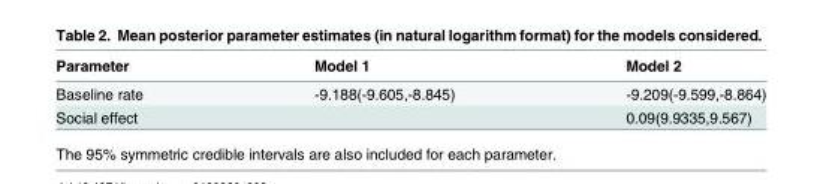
<table><thead><tr><td>Parameter</td><td>Model 1</td><td>Model 2</td></tr></thead><tbody><tr><td>Baseline rate</td><td>-9.188(-9.605,-8.845)</td><td>-9.209(-9.599,-8.864)</td></tr><tr><td>Social effect</td><td></td><td>0.09(9.9335,9.567)</td></tr></tbody></table>